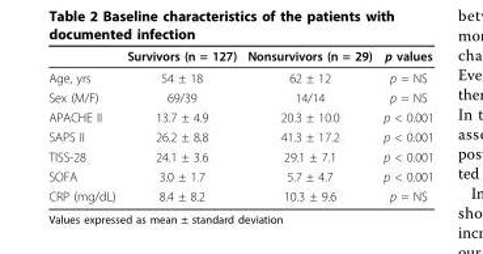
<table><thead><tr><td></td><td>Survivors (n = 127)</td><td>Nonsurvivors (n = 29)</td><td>p values</td></tr></thead><tbody><tr><td>Age, yrs</td><td>54 ± 18</td><td>62 ± 12</td><td>p = NS</td></tr><tr><td>Sex (M/F)</td><td>69/39</td><td>14/14</td><td>p = NS</td></tr><tr><td>APACHE II</td><td>13.7 ± 4.9</td><td>20.3 ± 10.0</td><td>p &lt; 0.001</td></tr><tr><td>SAPS II</td><td>26.2 ± 8.8</td><td>41.3 ± 17.2</td><td>p &lt; 0.001</td></tr><tr><td>TISS-28</td><td>24.1 ± 3.6</td><td>29.1 ± 7.1</td><td>p &lt; 0.001</td></tr><tr><td>SOFA</td><td>3.0 ± 1.7</td><td>5.7 ± 4.7</td><td>p &lt; 0.001</td></tr><tr><td>CRP (mg/dL)</td><td>8.4 ± 8.2</td><td>10.3 ± 9.6</td><td>p = NS</td></tr></tbody></table>